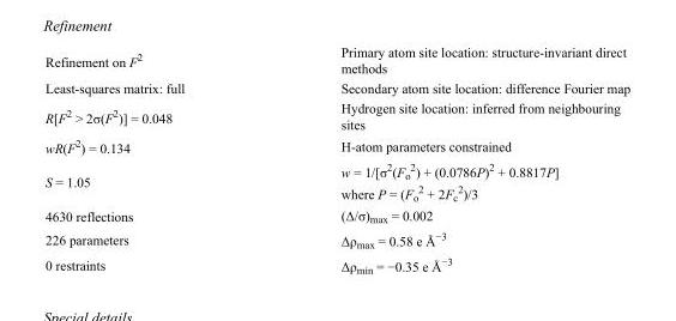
<table><tbody><tr><td>Refinement on F<sup>2</sup></td><td>Primary atom site location: structure-invariant direct methods</td></tr><tr><td>Least-squares matrix: full</td><td>Secondary atom site location: difference Fourier map</td></tr><tr><td>R[F<sup>2</sup> &gt; 2σ(F<sup>2</sup>)] = 0.048</td><td>Hydrogen site location: inferred from neighbouring sites</td></tr><tr><td>wR(F<sup>2</sup>) = 0.134</td><td>H-atom parameters constrained</td></tr><tr><td>S = 1.05</td><td>w = 1/[σ<sup>2</sup>(F<sub>o</sub> <sup>2</sup>) + (0.0786P)<sup>2</sup> + 0.8817P] where P = (F<sub>o</sub> <sup>2</sup> + 2F<sub>c</sub> <sup>2</sup>)/3</td></tr><tr><td>4630 reflections</td><td>(Δ/σ)<sub>max</sub> = 0.002</td></tr><tr><td>226 parameters</td><td>Δρ<sub>max</sub> = 0.58 e Å<sup>−3</sup></td></tr><tr><td>0 restraints</td><td>Δρ<sub>min</sub> = −0.35 e Å<sup>−3</sup></td></tr></tbody></table>